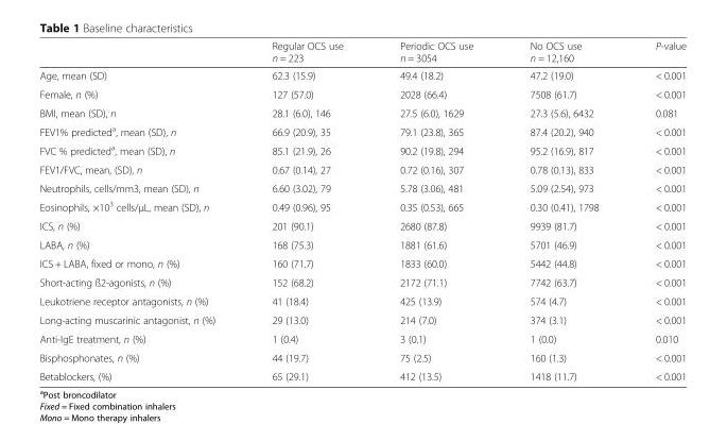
<table><thead><tr><td></td><td>Regular OCS use n = 223</td><td>Periodic OCS use n = 3054</td><td>No OCS use n = 12,160</td><td>P-value</td></tr></thead><tbody><tr><td>Age, mean (SD)</td><td>62.3 (15.9)</td><td>49.4 (18.2)</td><td>47.2 (19.0)</td><td>&lt; 0.001</td></tr><tr><td>Female, n (%)</td><td>127 (57.0)</td><td>2028 (66.4)</td><td>7508 (61.7)</td><td>&lt; 0.001</td></tr><tr><td>BMI, mean (SD), n</td><td>28.1 (6.0), 146</td><td>27.5 (6.0), 1629</td><td>27.3 (5.6), 6432</td><td>0.081</td></tr><tr><td>FEV1% predicted<sup>a</sup>, mean (SD), n</td><td>66.9 (20.9), 35</td><td>79.1 (23.8), 365</td><td>87.4 (20.2), 940</td><td>&lt; 0.001</td></tr><tr><td>FVC % predicted<sup>a</sup>, mean (SD), n</td><td>85.1 (21.9), 26</td><td>90.2 (19.8), 294</td><td>95.2 (16.9), 817</td><td>&lt; 0.001</td></tr><tr><td>FEV1/FVC, mean, (SD), n</td><td>0.67 (0.14), 27</td><td>0.72 (0.16), 307</td><td>0.78 (0.13), 833</td><td>&lt; 0.001</td></tr><tr><td>Neutrophils, cells/mm3, mean (SD), n</td><td>6.60 (3.02), 79</td><td>5.78 (3.06), 481</td><td>5.09 (2.54), 973</td><td>&lt; 0.001</td></tr><tr><td>Eosinophils, ×10<sup>3</sup> cells/μL, mean (SD), n</td><td>0.49 (0.96), 95</td><td>0.35 (0.53), 665</td><td>0.30 (0.41), 1798</td><td>&lt; 0.001</td></tr><tr><td>ICS, n (%)</td><td>201 (90.1)</td><td>2680 (87.8)</td><td>9939 (81.7)</td><td>&lt; 0.001</td></tr><tr><td>LABA, n (%)</td><td>168 (75.3)</td><td>1881 (61.6)</td><td>5701 (46.9)</td><td>&lt; 0.001</td></tr><tr><td>ICS + LABA, fixed or mono, n (%)</td><td>160 (71.7)</td><td>1833 (60.0)</td><td>5442 (44.8)</td><td>&lt; 0.001</td></tr><tr><td>Short-acting ß2-agonists, n (%)</td><td>152 (68.2)</td><td>2172 (71.1)</td><td>7742 (63.7)</td><td>&lt; 0.001</td></tr><tr><td>Leukotriene receptor antagonists, n (%)</td><td>41 (18.4)</td><td>425 (13.9)</td><td>574 (4.7)</td><td>&lt; 0.001</td></tr><tr><td>Long-acting muscarinic antagonist, n (%)</td><td>29 (13.0)</td><td>214 (7.0)</td><td>374 (3.1)</td><td>&lt; 0.001</td></tr><tr><td>Anti-IgE treatment, n (%)</td><td>1 (0.4)</td><td>3 (0.1)</td><td>1 (0.0)</td><td>0.010</td></tr><tr><td>Bisphosphonates, n (%)</td><td>44 (19.7)</td><td>75 (2.5)</td><td>160 (1.3)</td><td>&lt; 0.001</td></tr><tr><td>Betablockers, (%)</td><td>65 (29.1)</td><td>412 (13.5)</td><td>1418 (11.7)</td><td>&lt; 0.001</td></tr></tbody></table>